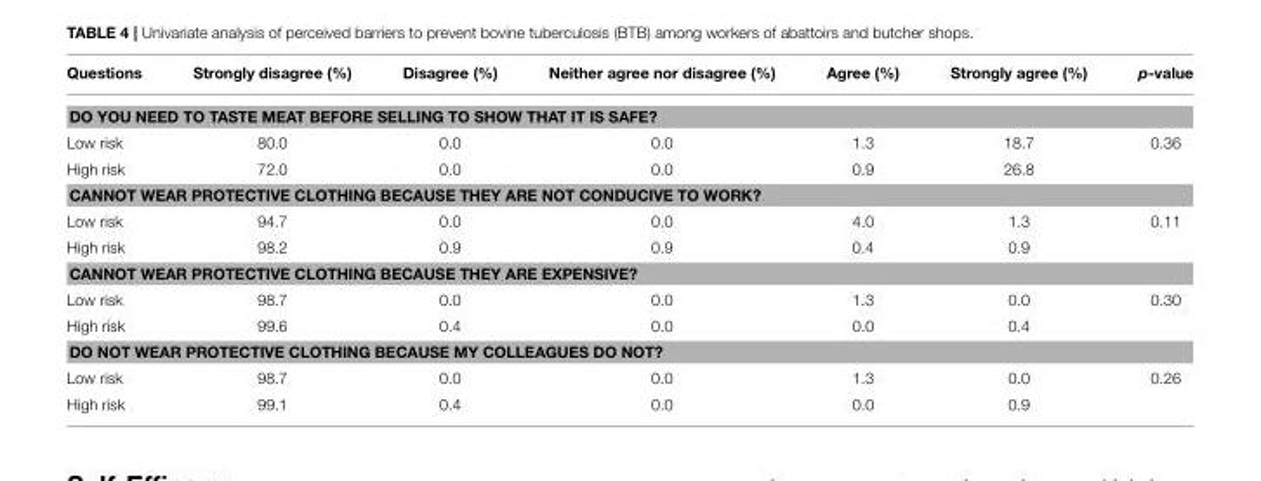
<table><thead><tr><td>Questions</td><td>Strongly disagree (%)</td><td>Disagree (%)</td><td>Neither agree nor disagree (%)</td><td>Agree (%)</td><td>Strongly agree (%)</td><td>p-value</td></tr></thead><tbody><tr><td colspan="7">DO YOU NEED TO TASTE MEAT BEFORE SELLING TO SHOW THAT IT IS SAFE?</td></tr><tr><td>Low risk</td><td>80.0</td><td>0.0</td><td>0.0</td><td>1.3</td><td>18.7</td><td>0.36</td></tr><tr><td>High risk</td><td>72.0</td><td>0.0</td><td>0.0</td><td>0.9</td><td>26.8</td><td></td></tr><tr><td colspan="7">CANNOT WEAR PROTECTIVE CLOTHING BECAUSE THEY ARE NOT CONDUCIVE TO WORK?</td></tr><tr><td>Low risk</td><td>94.7</td><td>0.0</td><td>0.0</td><td>4.0</td><td>1.3</td><td>0.11</td></tr><tr><td>High risk</td><td>98.2</td><td>0.9</td><td>0.9</td><td>0.4</td><td>0.9</td><td></td></tr><tr><td colspan="7">CANNOT WEAR PROTECTIVE CLOTHING BECAUSE THEY ARE EXPENSIVE?</td></tr><tr><td>Low risk</td><td>98.7</td><td>0.0</td><td>0.0</td><td>1.3</td><td>0.0</td><td>0.30</td></tr><tr><td>High risk</td><td>99.6</td><td>0.4</td><td>0.0</td><td>0.0</td><td>0.4</td><td></td></tr><tr><td colspan="7">DO NOT WEAR PROTECTIVE CLOTHING BECAUSE MY COLLEAGUES DO NOT?</td></tr><tr><td>Low risk</td><td>98.7</td><td>0.0</td><td>0.0</td><td>1.3</td><td>0.0</td><td>0.26</td></tr><tr><td>High risk</td><td>99.1</td><td>0.4</td><td>0.0</td><td>0.0</td><td>0.9</td><td></td></tr></tbody></table>